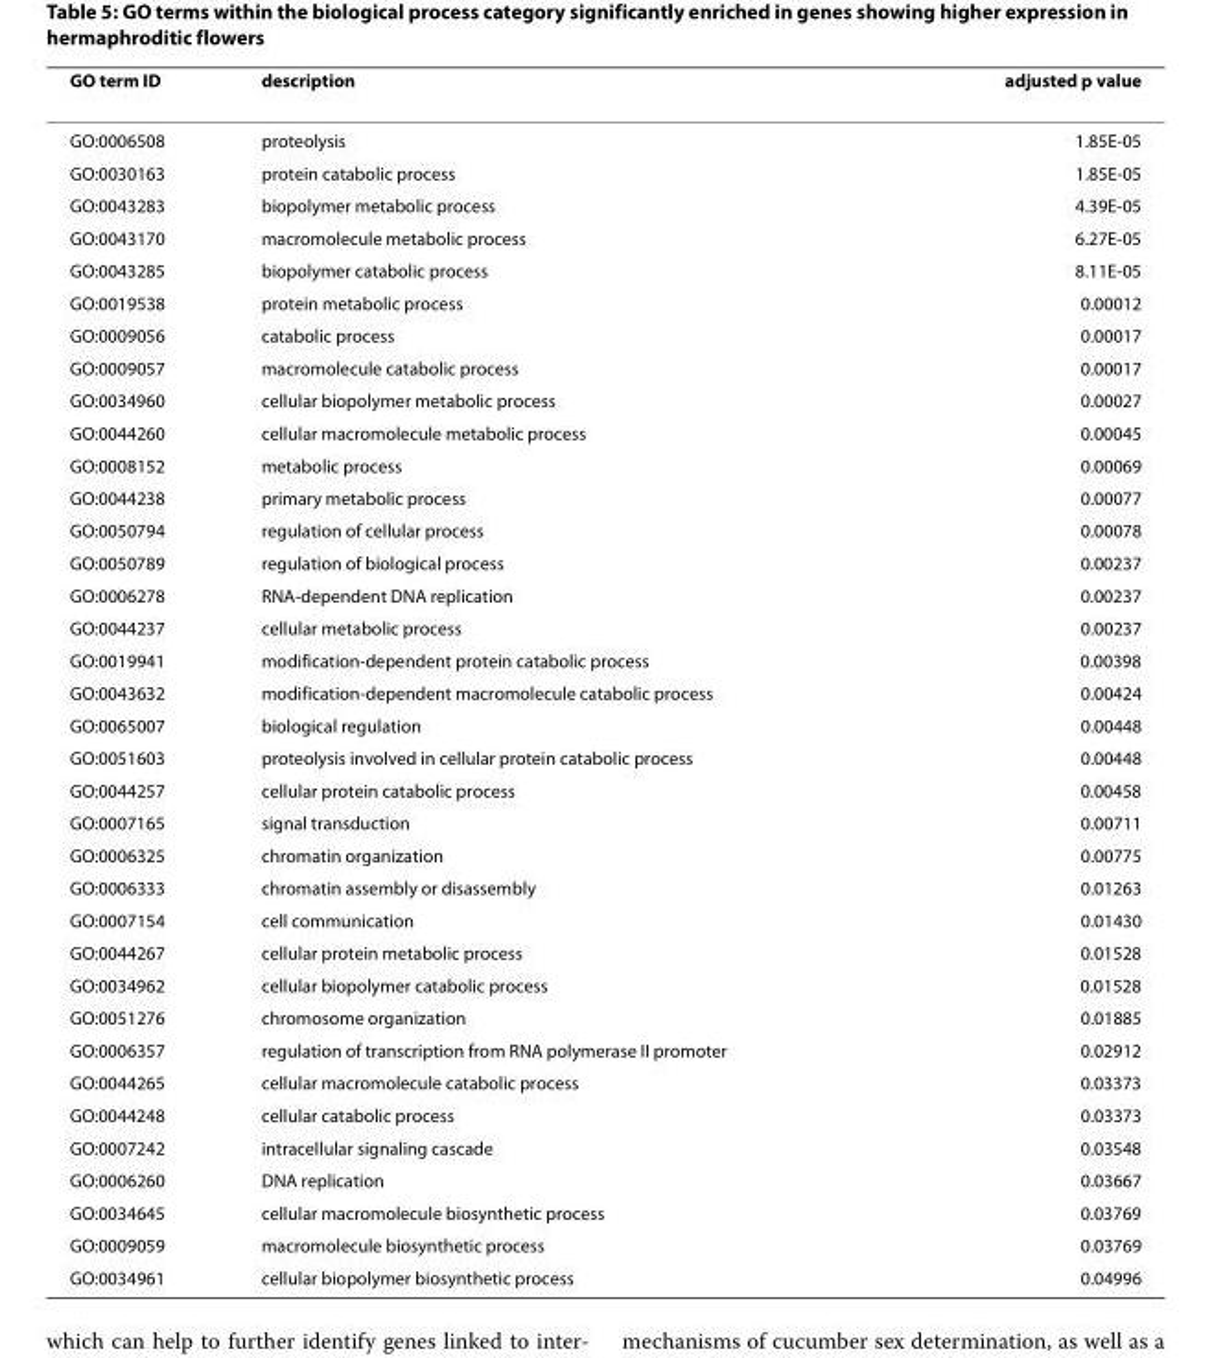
<table><thead><tr><td>GO term ID</td><td>description</td><td>adjusted p value</td></tr></thead><tbody><tr><td>GO:0006508</td><td>proteolysis</td><td>1.85E-05</td></tr><tr><td>GO:0030163</td><td>protein catabolic process</td><td>1.85E-05</td></tr><tr><td>GO:0043283</td><td>biopolymer metabolic process</td><td>4.39E-05</td></tr><tr><td>GO:0043170</td><td>macromolecule metabolic process</td><td>6.27E-05</td></tr><tr><td>GO:0043285</td><td>biopolymer catabolic process</td><td>8.11E-05</td></tr><tr><td>GO:0019538</td><td>protein metabolic process</td><td>0.00012</td></tr><tr><td>GO:0009056</td><td>catabolic process</td><td>0.00017</td></tr><tr><td>GO:0009057</td><td>macromolecule catabolic process</td><td>0.00017</td></tr><tr><td>GO:0034960</td><td>cellular biopolymer metabolic process</td><td>0.00027</td></tr><tr><td>GO:0044260</td><td>cellular macromolecule metabolic process</td><td>0.00045</td></tr><tr><td>GO:0008152</td><td>metabolic process</td><td>0.00069</td></tr><tr><td>GO:0044238</td><td>primary metabolic process</td><td>0.00077</td></tr><tr><td>GO:0050794</td><td>regulation of cellular process</td><td>0.00078</td></tr><tr><td>GO:0050789</td><td>regulation of biological process</td><td>0.00237</td></tr><tr><td>GO:0006278</td><td>RNA-dependent DNA replication</td><td>0.00237</td></tr><tr><td>GO:0044237</td><td>cellular metabolic process</td><td>0.00237</td></tr><tr><td>GO:0019941</td><td>modification-dependent protein catabolic process</td><td>0.00398</td></tr><tr><td>GO:0043632</td><td>modification-dependent macromolecule catabolic process</td><td>0.00424</td></tr><tr><td>GO:0065007</td><td>biological regulation</td><td>0.00448</td></tr><tr><td>GO:0051603</td><td>proteolysis involved in cellular protein catabolic process</td><td>0.00448</td></tr><tr><td>GO:0044257</td><td>cellular protein catabolic process</td><td>0.00458</td></tr><tr><td>GO:0007165</td><td>signal transduction</td><td>0.00711</td></tr><tr><td>GO:0006325</td><td>chromatin organization</td><td>0.00775</td></tr><tr><td>GO:0006333</td><td>chromatin assembly or disassembly</td><td>0.01263</td></tr><tr><td>GO:0007154</td><td>cell communication</td><td>0.01430</td></tr><tr><td>GO:0044267</td><td>cellular protein metabolic process</td><td>0.01528</td></tr><tr><td>GO:0034962</td><td>cellular biopolymer catabolic process</td><td>0.01528</td></tr><tr><td>GO:0051276</td><td>chromosome organization</td><td>0.01885</td></tr><tr><td>GO:0006357</td><td>regulation of transcription from RNA polymerase II promoter</td><td>0.02912</td></tr><tr><td>GO:0044265</td><td>cellular macromolecule catabolic process</td><td>0.03373</td></tr><tr><td>GO:0044248</td><td>cellular catabolic process</td><td>0.03373</td></tr><tr><td>GO:0007242</td><td>intracellular signaling cascade</td><td>0.03548</td></tr><tr><td>GO:0006260</td><td>DNA replication</td><td>0.03667</td></tr><tr><td>GO:0034645</td><td>cellular macromolecule biosynthetic process</td><td>0.03769</td></tr><tr><td>GO:0009059</td><td>macromolecule biosynthetic process</td><td>0.03769</td></tr><tr><td>GO:0034961</td><td>cellular biopolymer biosynthetic process</td><td>0.04996</td></tr></tbody></table>